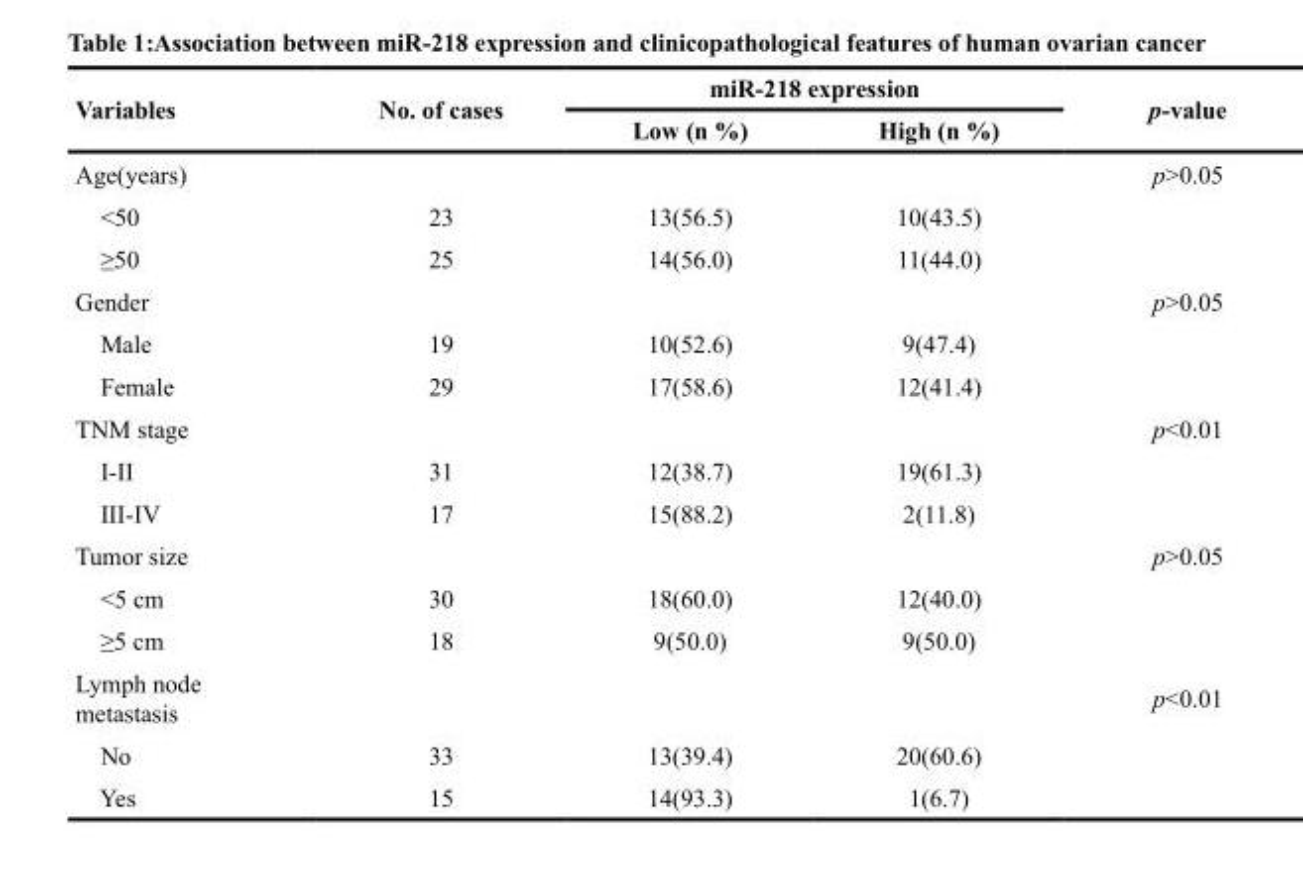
<table><thead><tr><td rowspan="2">Variables</td><td rowspan="2">No. of cases</td><td colspan="2">miR-218 expression</td><td rowspan="2">p-value</td></tr><tr><td>Low (n %)</td><td>High (n %)</td></tr></thead><tbody><tr><td>Age(years)</td><td></td><td></td><td></td><td>p&gt;0.05</td></tr><tr><td>&lt;50</td><td>23</td><td>13(56.5)</td><td>10(43.5)</td><td></td></tr><tr><td>≥50</td><td>25</td><td>14(56.0)</td><td>11(44.0)</td><td></td></tr><tr><td>Gender</td><td></td><td></td><td></td><td>p&gt;0.05</td></tr><tr><td>Male</td><td>19</td><td>10(52.6)</td><td>9(47.4)</td><td></td></tr><tr><td>Female</td><td>29</td><td>17(58.6)</td><td>12(41.4)</td><td></td></tr><tr><td>TNM stage</td><td></td><td></td><td></td><td>p&lt;0.01</td></tr><tr><td>I-II</td><td>31</td><td>12(38.7)</td><td>19(61.3)</td><td></td></tr><tr><td>III-IV</td><td>17</td><td>15(88.2)</td><td>2(11.8)</td><td></td></tr><tr><td>Tumor size</td><td></td><td></td><td></td><td>p&gt;0.05</td></tr><tr><td>&lt;5 cm</td><td>30</td><td>18(60.0)</td><td>12(40.0)</td><td></td></tr><tr><td>≥5 cm</td><td>18</td><td>9(50.0)</td><td>9(50.0)</td><td></td></tr><tr><td>Lymph node metastasis</td><td></td><td></td><td></td><td>p&lt;0.01</td></tr><tr><td>No</td><td>33</td><td>13(39.4)</td><td>20(60.6)</td><td></td></tr><tr><td>Yes</td><td>15</td><td>14(93.3)</td><td>1(6.7)</td><td></td></tr></tbody></table>